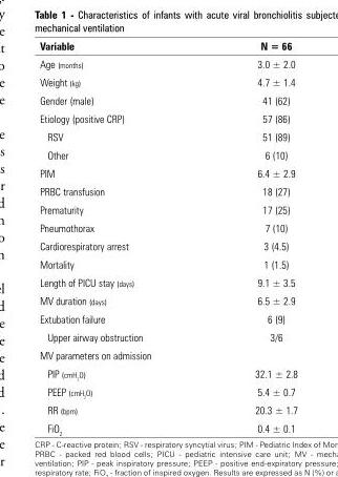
<table><thead><tr><td>Variable</td><td>N = 66</td></tr></thead><tbody><tr><td>Age (months)</td><td>3.0 ± 2.0</td></tr><tr><td>Weight (kg)</td><td>4.7 ± 1.4</td></tr><tr><td>Gender (male)</td><td>41 (62)</td></tr><tr><td>Etiology (positive CRP)</td><td>57 (86)</td></tr><tr><td>RSV</td><td>51 (89)</td></tr><tr><td>Other</td><td>6 (10)</td></tr><tr><td>PIM</td><td>6.4 ± 2.9</td></tr><tr><td>PRBC transfusion</td><td>18 (27)</td></tr><tr><td>Prematurity</td><td>17 (25)</td></tr><tr><td>Pneumothorax</td><td>7 (10)</td></tr><tr><td>Cardiorespiratory arrest</td><td>3 (4.5)</td></tr><tr><td>Mortality</td><td>1 (1.5)</td></tr><tr><td>Length of PICU stay (days)</td><td>9.1 ± 3.5</td></tr><tr><td>MV duration (days)</td><td>6.5 ± 2.9</td></tr><tr><td>Extubation failure</td><td>6 (9)</td></tr><tr><td>Upper airway obstruction</td><td>3/6</td></tr><tr><td colspan="2">MV parameters on admission</td></tr><tr><td>PIP (cmH<sub>2</sub>O)</td><td>32.1 ± 2.8</td></tr><tr><td>PEEP (cmH<sub>2</sub>O)</td><td>5.4 ± 0.7</td></tr><tr><td>RR (bpm)</td><td>20.3 ± 1.7</td></tr><tr><td>FiO<sub>2</sub></td><td>0.4 ± 0.1</td></tr></tbody></table>